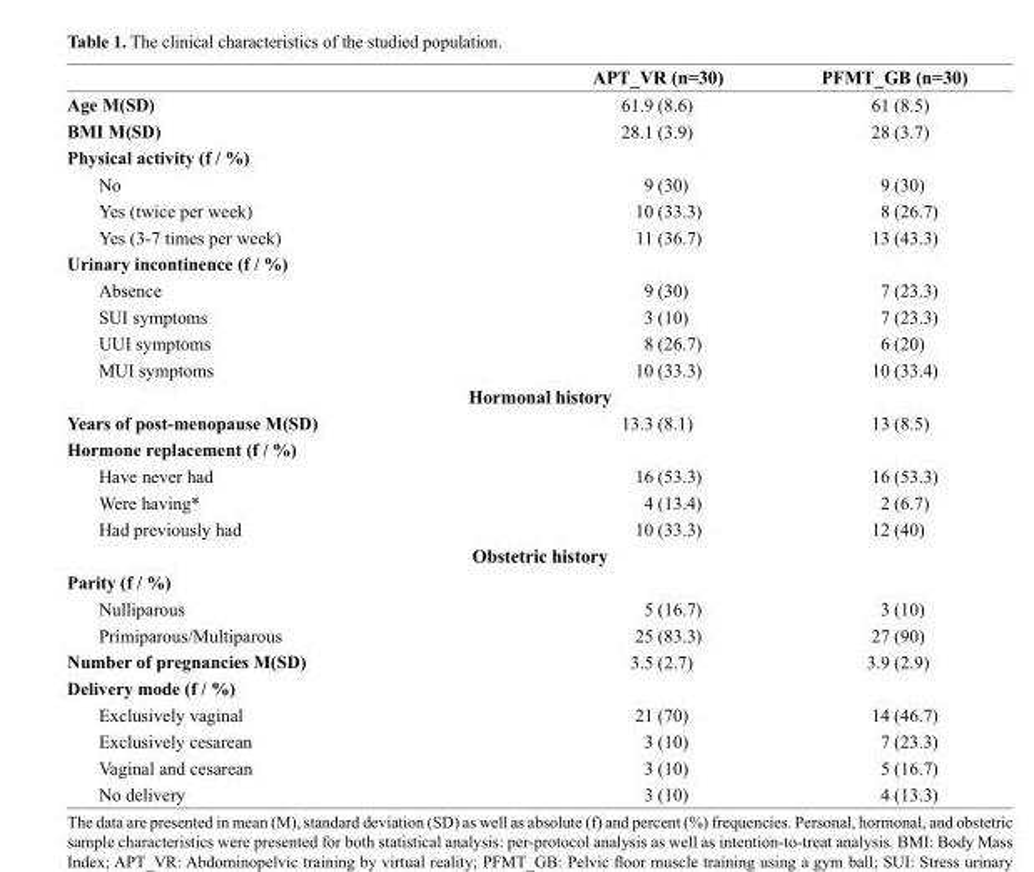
<table><thead><tr><td></td><td>APT_VR (n=30)</td><td>PFMT_GB (n=30)</td></tr></thead><tbody><tr><td>Age M(SD)</td><td>61.9 (8.6)</td><td>61 (8.5)</td></tr><tr><td>BMI M(SD)</td><td>28.1 (3.9)</td><td>28 (3.7)</td></tr><tr><td colspan="3">Physical activity (f / %)</td></tr><tr><td>No</td><td>9 (30)</td><td>9 (30)</td></tr><tr><td>Yes (twice per week)</td><td>10 (33.3)</td><td>8 (26.7)</td></tr><tr><td>Yes (3-7 times per week)</td><td>11 (36.7)</td><td>13 (43.3)</td></tr><tr><td colspan="3">Urinary incontinence (f / %)</td></tr><tr><td>Absence</td><td>9 (30)</td><td>7 (23.3)</td></tr><tr><td>SUI symptoms</td><td>3 (10)</td><td>7 (23.3)</td></tr><tr><td>UUI symptoms</td><td>8 (26.7)</td><td>6 (20)</td></tr><tr><td>MUI symptoms</td><td>10 (33.3)</td><td>10 (33.4)</td></tr><tr><td colspan="3">Hormonal history</td></tr><tr><td>Years of post-menopause M(SD)</td><td>13.3 (8.1)</td><td>13 (8.5)</td></tr><tr><td colspan="3">Hormone replacement (f / %)</td></tr><tr><td>Have never had</td><td>16 (53.3)</td><td>16 (53.3)</td></tr><tr><td>Were having*</td><td>4 (13.4)</td><td>2 (6.7)</td></tr><tr><td>Had previously had</td><td>10 (33.3)</td><td>12 (40)</td></tr><tr><td colspan="3">Obstetric history</td></tr><tr><td colspan="3">Parity (f / %)</td></tr><tr><td>Nulliparous</td><td>5 (16.7)</td><td>3 (10)</td></tr><tr><td>Primiparous/Multiparous</td><td>25 (83.3)</td><td>27 (90)</td></tr><tr><td>Number of pregnancies M(SD)</td><td>3.5 (2.7)</td><td>3.9 (2.9)</td></tr><tr><td colspan="3">Delivery mode (f / %)</td></tr><tr><td>Exclusively vaginal</td><td>21 (70)</td><td>14 (46.7)</td></tr><tr><td>Exclusively cesarean</td><td>3 (10)</td><td>7 (23.3)</td></tr><tr><td>Vaginal and cesarean</td><td>3 (10)</td><td>5 (16.7)</td></tr><tr><td>No delivery</td><td>3 (10)</td><td>4 (13.3)</td></tr></tbody></table>